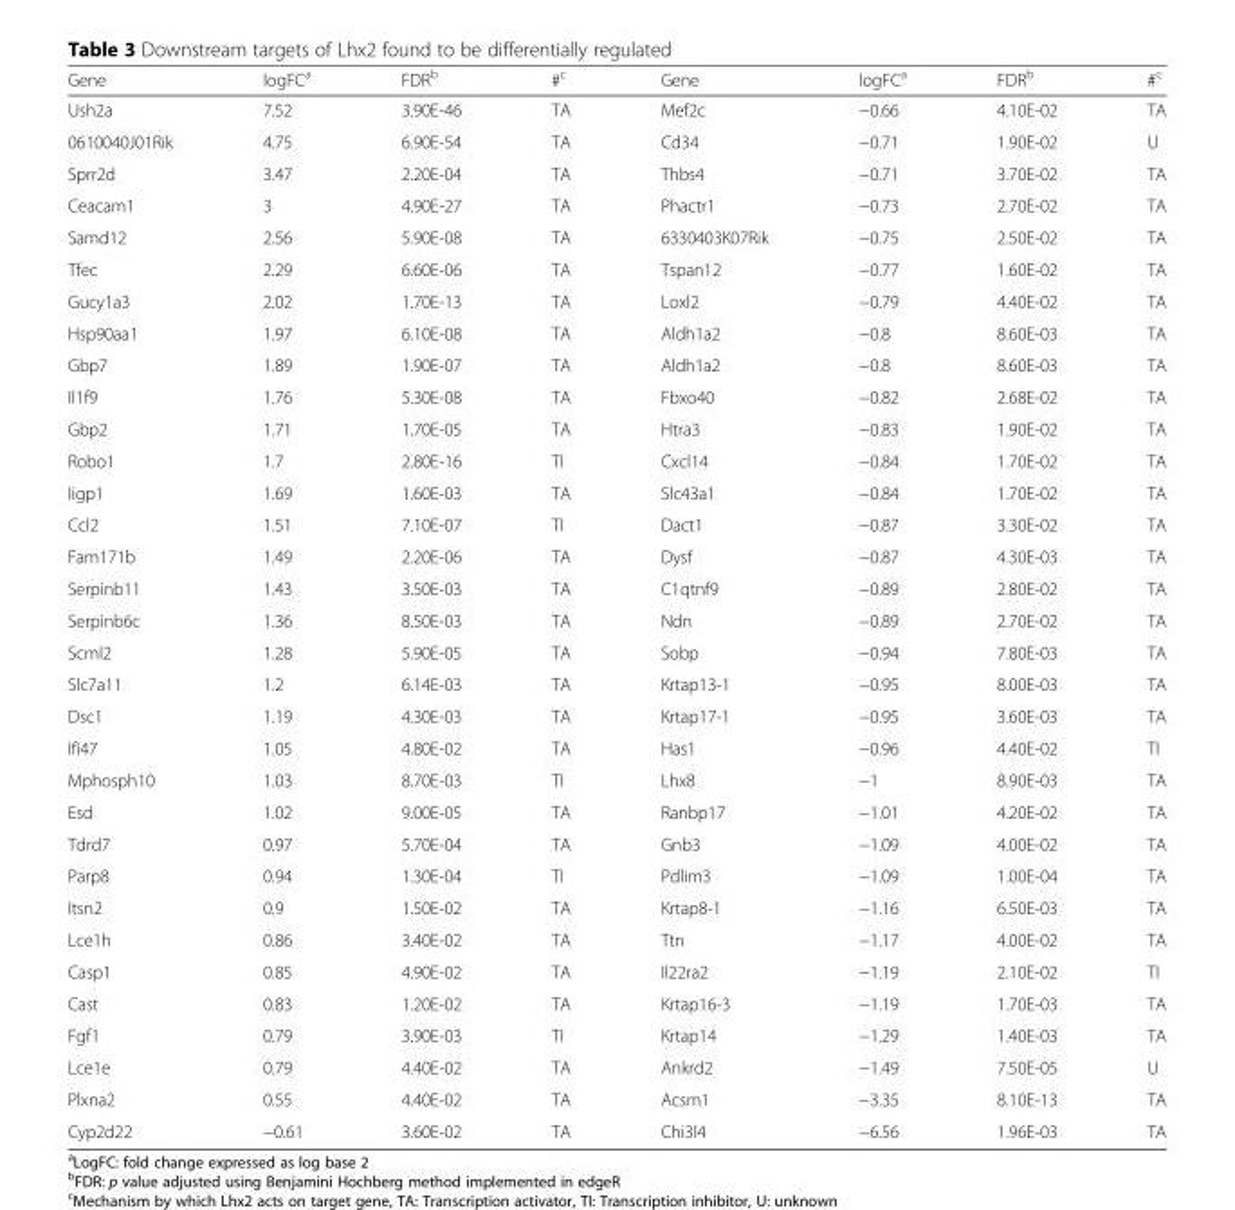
<table><thead><tr><td>Gene</td><td>logFC<sup>a</sup></td><td>FDR<sup>b</sup></td><td>#<sup>c</sup></td><td>Gene</td><td>logFC<sup>a</sup></td><td>FDR<sup>b</sup></td><td>#<sup>c</sup></td></tr></thead><tbody><tr><td>Ush2a</td><td>7.52</td><td>3.90E-46</td><td>TA</td><td>Mef2c</td><td>−0.66</td><td>4.10E-02</td><td>TA</td></tr><tr><td>0610040J01Rik</td><td>4.75</td><td>6.90E-54</td><td>TA</td><td>Cd34</td><td>−0.71</td><td>1.90E-02</td><td>U</td></tr><tr><td>Sprr2d</td><td>3.47</td><td>2.20E-04</td><td>TA</td><td>Thbs4</td><td>−0.71</td><td>3.70E-02</td><td>TA</td></tr><tr><td>Ceacam1</td><td>3</td><td>4.90E-27</td><td>TA</td><td>Phactr1</td><td>−0.73</td><td>2.70E-02</td><td>TA</td></tr><tr><td>Samd12</td><td>2.56</td><td>5.90E-08</td><td>TA</td><td>6330403K07Rik</td><td>−0.75</td><td>2.50E-02</td><td>TA</td></tr><tr><td>Tfec</td><td>2.29</td><td>6.60E-06</td><td>TA</td><td>Tspan12</td><td>−0.77</td><td>1.60E-02</td><td>TA</td></tr><tr><td>Gucy1a3</td><td>2.02</td><td>1.70E-13</td><td>TA</td><td>Loxl2</td><td>−0.79</td><td>4.40E-02</td><td>TA</td></tr><tr><td>Hsp90aa1</td><td>1.97</td><td>6.10E-08</td><td>TA</td><td>Aldh1a2</td><td>−0.8</td><td>8.60E-03</td><td>TA</td></tr><tr><td>Gbp7</td><td>1.89</td><td>1.90E-07</td><td>TA</td><td>Aldh1a2</td><td>−0.8</td><td>8.60E-03</td><td>TA</td></tr><tr><td>Il1f9</td><td>1.76</td><td>5.30E-08</td><td>TA</td><td>Fbxo40</td><td>−0.82</td><td>2.68E-02</td><td>TA</td></tr><tr><td>Gbp2</td><td>1.71</td><td>1.70E-05</td><td>TA</td><td>Htra3</td><td>−0.83</td><td>1.90E-02</td><td>TA</td></tr><tr><td>Robo1</td><td>1.7</td><td>2.80E-16</td><td>TI</td><td>Cxcl14</td><td>−0.84</td><td>1.70E-02</td><td>TA</td></tr><tr><td>Iigp1</td><td>1.69</td><td>1.60E-03</td><td>TA</td><td>Slc43a1</td><td>−0.84</td><td>1.70E-02</td><td>TA</td></tr><tr><td>Ccl2</td><td>1.51</td><td>7.10E-07</td><td>TI</td><td>Dact1</td><td>−0.87</td><td>3.30E-02</td><td>TA</td></tr><tr><td>Fam171b</td><td>1.49</td><td>2.20E-06</td><td>TA</td><td>Dysf</td><td>−0.87</td><td>4.30E-03</td><td>TA</td></tr><tr><td>Serpinb11</td><td>1.43</td><td>3.50E-03</td><td>TA</td><td>C1qtnf9</td><td>−0.89</td><td>2.80E-02</td><td>TA</td></tr><tr><td>Serpinb6c</td><td>1.36</td><td>8.50E-03</td><td>TA</td><td>Ndn</td><td>−0.89</td><td>2.70E-02</td><td>TA</td></tr><tr><td>Scml2</td><td>1.28</td><td>5.90E-05</td><td>TA</td><td>Sobp</td><td>−0.94</td><td>7.80E-03</td><td>TA</td></tr><tr><td>Slc7a11</td><td>1.2</td><td>6.14E-03</td><td>TA</td><td>Krtap13-1</td><td>−0.95</td><td>8.00E-03</td><td>TA</td></tr><tr><td>Dsc1</td><td>1.19</td><td>4.30E-03</td><td>TA</td><td>Krtap17-1</td><td>−0.95</td><td>3.60E-03</td><td>TA</td></tr><tr><td>Ifi47</td><td>1.05</td><td>4.80E-02</td><td>TA</td><td>Has1</td><td>−0.96</td><td>4.40E-02</td><td>TI</td></tr><tr><td>Mphosph10</td><td>1.03</td><td>8.70E-03</td><td>TI</td><td>Lhx8</td><td>−1</td><td>8.90E-03</td><td>TA</td></tr><tr><td>Esd</td><td>1.02</td><td>9.00E-05</td><td>TA</td><td>Ranbp17</td><td>−1.01</td><td>4.20E-02</td><td>TA</td></tr><tr><td>Tdrd7</td><td>0.97</td><td>5.70E-04</td><td>TA</td><td>Gnb3</td><td>−1.09</td><td>4.00E-02</td><td>TA</td></tr><tr><td>Parp8</td><td>0.94</td><td>1.30E-04</td><td>TI</td><td>Pdlim3</td><td>−1.09</td><td>1.00E-04</td><td>TA</td></tr><tr><td>Itsn2</td><td>0.9</td><td>1.50E-02</td><td>TA</td><td>Krtap8-1</td><td>−1.16</td><td>6.50E-03</td><td>TA</td></tr><tr><td>Lce1h</td><td>0.86</td><td>3.40E-02</td><td>TA</td><td>Ttn</td><td>−1.17</td><td>4.00E-02</td><td>TA</td></tr><tr><td>Casp1</td><td>0.85</td><td>4.90E-02</td><td>TA</td><td>Il22ra2</td><td>−1.19</td><td>2.10E-02</td><td>TI</td></tr><tr><td>Cast</td><td>0.83</td><td>1.20E-02</td><td>TA</td><td>Krtap16-3</td><td>−1.19</td><td>1.70E-03</td><td>TA</td></tr><tr><td>Fgf1</td><td>0.79</td><td>3.90E-03</td><td>TI</td><td>Krtap14</td><td>−1.29</td><td>1.40E-03</td><td>TA</td></tr><tr><td>Lce1e</td><td>0.79</td><td>4.40E-02</td><td>TA</td><td>Ankrd2</td><td>−1.49</td><td>7.50E-05</td><td>U</td></tr><tr><td>Plxna2</td><td>0.55</td><td>4.40E-02</td><td>TA</td><td>Acsm1</td><td>−3.35</td><td>8.10E-13</td><td>TA</td></tr><tr><td>Cyp2d22</td><td>−0.61</td><td>3.60E-02</td><td>TA</td><td>Chi3l4</td><td>−6.56</td><td>1.96E-03</td><td>TA</td></tr></tbody></table>